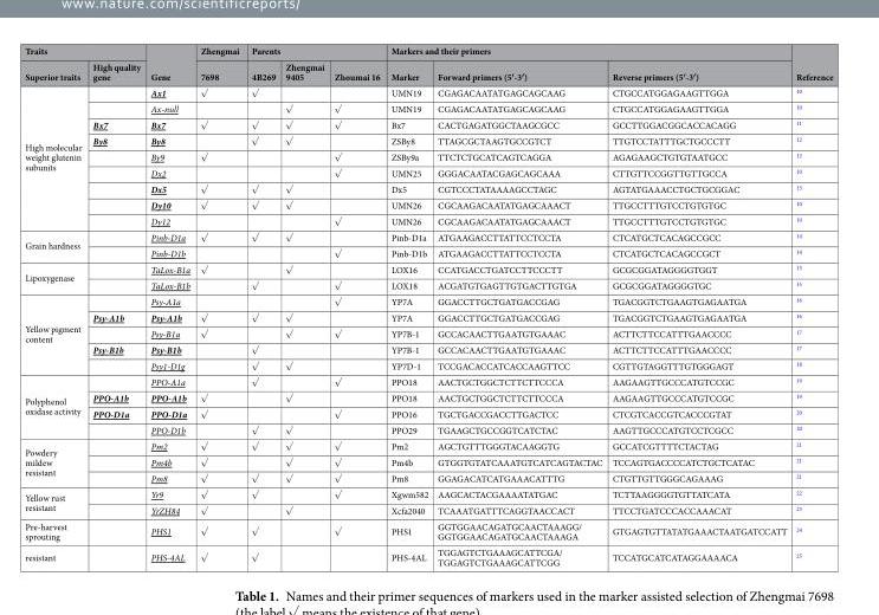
<table><thead><tr><td colspan="2">Traits</td><td rowspan="2">Gene</td><td rowspan="2">Zhengmai 7698</td><td colspan="3">Parents</td><td colspan="3">Markers and their primers</td><td rowspan="2">Reference</td></tr><tr><td>Superior traits</td><td>High quality gene</td><td>4B269</td><td>Zhengmai 9405</td><td>Zhoumai 16</td><td>Marker</td><td>Forward primers (5′-3′)</td><td>Reverse primers (5′-3′)</td></tr></thead><tbody><tr><td rowspan="9">High molecular weight glutenin subunits</td><td></td><td>Ax1</td><td>√</td><td>√</td><td></td><td></td><td>UMN19</td><td>CGAGACAATATGAGCAGCAAG</td><td>CTGCCATGGAGAAGTTGGA</td><td><sup>10</sup></td></tr><tr><td></td><td>Ax-null</td><td></td><td></td><td>√</td><td>√</td><td>UMN19</td><td>CGAGACAATATGAGCAGCAAG</td><td>CTGCCATGGAGAAGTTGGA</td><td><sup>10</sup></td></tr><tr><td>Bx7</td><td>Bx7</td><td>√</td><td>√</td><td>√</td><td>√</td><td>Bx7</td><td>CACTGAGATGGCTAAGCGCC</td><td>GCCTTGGACGGCACCACAGG</td><td><sup>11</sup></td></tr><tr><td>By8</td><td>By8</td><td></td><td>√</td><td>√</td><td></td><td>ZSBy8</td><td>TTAGCGCTAAGTGCCGTCT</td><td>TTGTCCTATTTGCTGCCCTT</td><td><sup>12</sup></td></tr><tr><td></td><td>By9</td><td>√</td><td></td><td></td><td>√</td><td>ZSBy9a</td><td>TTCTCTGCATCAGTCAGGA</td><td>AGAGAAGCTGTGTAATGCC</td><td><sup>12</sup></td></tr><tr><td></td><td>Dx2</td><td></td><td></td><td></td><td>√</td><td>UMN25</td><td>GGGACAATACGAGCAGCAAA</td><td>CTTGTTCCGGTTGTTGCCA</td><td><sup>10</sup></td></tr><tr><td></td><td>Dx5</td><td>√</td><td>√</td><td>√</td><td></td><td>Dx5</td><td>CGTCCCTATAAAAGCCTAGC</td><td>AGTATGAAACCTGCTGCGGAC</td><td><sup>13</sup></td></tr><tr><td></td><td>Dy10</td><td>√</td><td>√</td><td>√</td><td></td><td>UMN26</td><td>CGCAAGACAATATGAGCAAACT</td><td>TTGCCTTTGTCCTGTGTGC</td><td><sup>10</sup></td></tr><tr><td></td><td>Dy12</td><td></td><td></td><td></td><td>√</td><td>UMN26</td><td>CGCAAGACAATATGAGCAAACT</td><td>TTGCCTTTGTCCTGTGTGC</td><td><sup>10</sup></td></tr><tr><td rowspan="2">Grain hardness</td><td></td><td>Pinb-D1a</td><td>√</td><td>√</td><td>√</td><td></td><td>Pinb-D1a</td><td>ATGAAGACCTTATTCCTCCTA</td><td>CTCATGCTCACAGCCGCC</td><td><sup>14</sup></td></tr><tr><td></td><td>Pinb-D1b</td><td></td><td></td><td></td><td>√</td><td>Pinb-D1b</td><td>ATGAAGACCTTATTCCTCCTA</td><td>CTCATGCTCACAGCCGCT</td><td><sup>14</sup></td></tr><tr><td rowspan="2">Lipoxygenase</td><td></td><td>TaLox-B1a</td><td>√</td><td></td><td>√</td><td></td><td>LOX16</td><td>CCATGACCTGATCCTTCCCTT</td><td>GCGCGGATAGGGGTGGT</td><td><sup>15</sup></td></tr><tr><td></td><td>TaLox-B1b</td><td></td><td>√</td><td></td><td>√</td><td>LOX18</td><td>ACGATGTGAGTTGTGACTTGTGA</td><td>GCGCGGATAGGGGTGC</td><td><sup>15</sup></td></tr><tr><td rowspan="5">Yellow pigment content</td><td></td><td>Psy-A1a</td><td></td><td></td><td></td><td>√</td><td>YP7A</td><td>GGACCTTGCTGATGACCGAG</td><td>TGACGGTCTGAAGTGAGAATGA</td><td><sup>16</sup></td></tr><tr><td>Psy-A1b</td><td>Psy-A1b</td><td>√</td><td>√</td><td>√</td><td></td><td>YP7A</td><td>GGACCTTGCTGATGACCGAG</td><td>TGACGGTCTGAAGTGAGAATGA</td><td><sup>16</sup></td></tr><tr><td></td><td>Psy-B1a</td><td>√</td><td></td><td>√</td><td>√</td><td>YP7B-1</td><td>GCCACAACTTGAATGTGAAAC</td><td>ACTTCTTCCATTTGAACCCC</td><td><sup>17</sup></td></tr><tr><td>Psy-B1b</td><td>Psy-B1b</td><td></td><td>√</td><td></td><td></td><td>YP7B-1</td><td>GCCACAACTTGAATGTGAAAC</td><td>ACTTCTTCCATTTGAACCCC</td><td><sup>17</sup></td></tr><tr><td></td><td>Psy1-D1g</td><td></td><td>√</td><td>√</td><td></td><td>YP7D-1</td><td>TCCGACACCATCACCAAGTTCC</td><td>CGTTGTAGGTTTGTGGGAGT</td><td><sup>18</sup></td></tr><tr><td rowspan="4">Polyphenol oxidase activity</td><td></td><td>PPO-A1a</td><td></td><td>√</td><td></td><td>√</td><td>PPO18</td><td>AACTGCTGGCTCTTCTTCCCA</td><td>AAGAAGTTGCCCATGTCCGC</td><td><sup>19</sup></td></tr><tr><td>PPO-A1b</td><td>PPO-A1b</td><td>√</td><td></td><td>√</td><td></td><td>PPO18</td><td>AACTGCTGGCTCTTCTTCCCA</td><td>AAGAAGTTGCCCATGTCCGC</td><td><sup>19</sup></td></tr><tr><td>PPO-D1a</td><td>PPO-D1a</td><td>√</td><td></td><td></td><td>√</td><td>PPO16</td><td>TGCTGACCGACCTTGACTCC</td><td>CTCGTCACCGTCACCCGTAT</td><td><sup>20</sup></td></tr><tr><td></td><td>PPO-D1b</td><td></td><td>√</td><td>√</td><td></td><td>PPO29</td><td>TGAAGCTGCCGGTCATCTAC</td><td>AAGTTGCCCATGTCCTCGCC</td><td><sup>20</sup></td></tr><tr><td rowspan="3">Powdery mildew resistant</td><td></td><td>Pm2</td><td>√</td><td>√</td><td>√</td><td>√</td><td>Pm2</td><td>AGCTGTTTGGGTACAAGGTG</td><td>GCCATCGTTTTCTACTAG</td><td><sup>21</sup></td></tr><tr><td></td><td>Pm4b</td><td>√</td><td></td><td>√</td><td>√</td><td>Pm4b</td><td>GTGGTGTATCAAATGTCATCAGTACTAC</td><td>TCCAGTGACCCCATCTGCTCATAC</td><td><sup>21</sup></td></tr><tr><td></td><td>Pm8</td><td>√</td><td>√</td><td>√</td><td>√</td><td>Pm8</td><td>GGAGACATCATGAAACATTTG</td><td>CTGTTGTTGGGCAGAAAG</td><td><sup>21</sup></td></tr><tr><td rowspan="2">Yellow rust resistant</td><td></td><td>Yr9</td><td>√</td><td>√</td><td></td><td>√</td><td>Xgwm582</td><td>AAGCACTACGAAAATATGAC</td><td>TCTTAAGGGGTGTTATCATA</td><td><sup>22</sup></td></tr><tr><td></td><td>YrZH84</td><td>√</td><td></td><td>√</td><td></td><td>Xcfa2040</td><td>TCAAATGATTTCAGGTAACCACT</td><td>TTCCTGATCCCACCAAACAT</td><td><sup>23</sup></td></tr><tr><td>Pre-harvest sprouting</td><td></td><td>PHS1</td><td>√</td><td>√</td><td></td><td>√</td><td>PHS1</td><td>GGTGGAACAGATGCAACTAAAGG/ GGTGGAACAGATGCAACTAAAGA</td><td>GTGAGTGTTATATGAAACTAATGATCCATT</td><td><sup>24</sup></td></tr><tr><td>resistant</td><td></td><td>PHS-4AL</td><td>√</td><td>√</td><td></td><td></td><td>PHS-4AL</td><td>TGGAGTCTGAAAGCATTCGA/ TGGAGTCTGAAAGCATTCGG</td><td>TCCATGCATCATAGGAAAACA</td><td><sup>25</sup></td></tr></tbody></table>